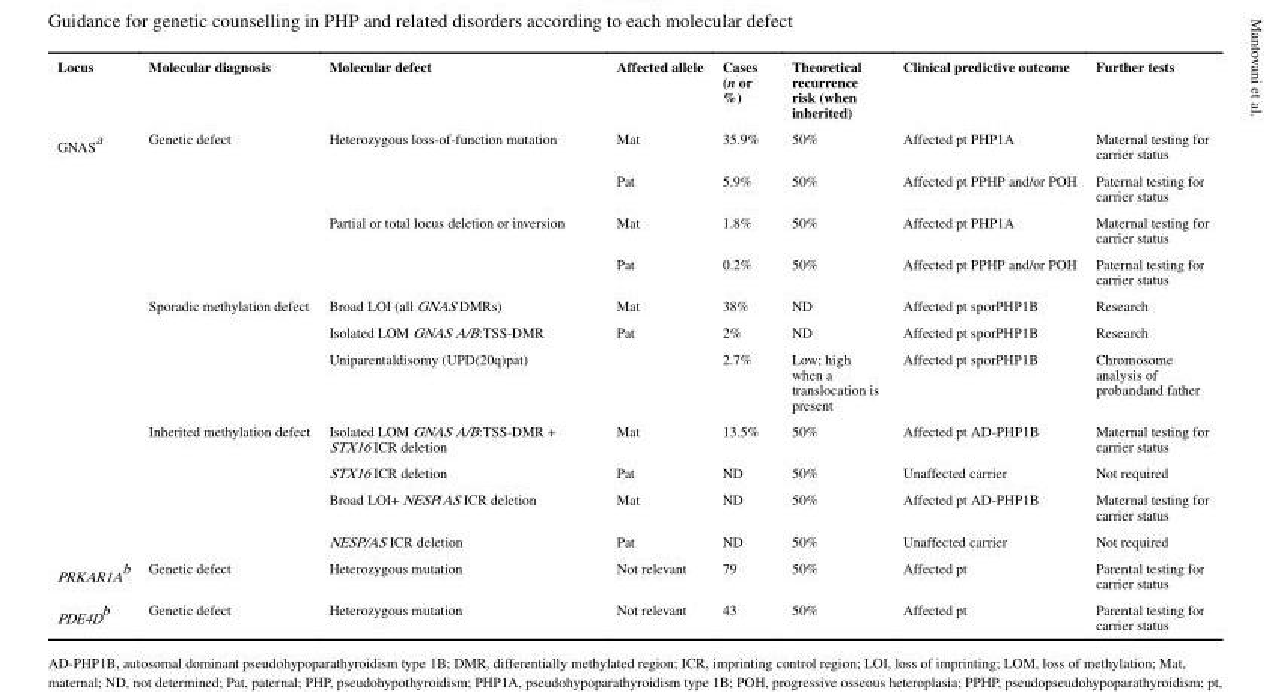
<table><thead><tr><td>Locus</td><td>Molecular diagnosis</td><td>Molecular defect</td><td>Affected allele</td><td>Cases (n or %)</td><td>Theoretical recurrence risk (when inherited)</td><td>Clinical predictive outcome</td><td>Further tests</td></tr></thead><tbody><tr><td rowspan="11">GNAS<sup>a</sup></td><td rowspan="4">Genetic defect</td><td rowspan="2">Heterozygous loss-of-function mutation</td><td>Mat</td><td>35.9%</td><td>50%</td><td>Affected pt PHP1A</td><td>Maternal testing for carrier status</td></tr><tr><td>Pat</td><td>5.9%</td><td>50%</td><td>Affected pt PPHP and/or POH</td><td>Paternal testing for carrier status</td></tr><tr><td rowspan="2">Partial or total locus deletion or inversion</td><td>Mat</td><td>1.8%</td><td>50%</td><td>Affected pt PHP1A</td><td>Maternal testing for carrier status</td></tr><tr><td>Pat</td><td>0.2%</td><td>50%</td><td>Affected pt PPHP and/or POH</td><td>Paternal testing for carrier status</td></tr><tr><td rowspan="3">Sporadic methylation defect</td><td>Broad LOI (all GNAS DMRs)</td><td>Mat</td><td>38%</td><td>ND</td><td>Affected pt sporPHP1B</td><td>Research</td></tr><tr><td>Isolated LOM GNAS A/B:TSS-DMR</td><td>Pat</td><td>2%</td><td>ND</td><td>Affected pt sporPHP1B</td><td>Research</td></tr><tr><td>Uniparentaldisomy (UPD(20q)pat)</td><td></td><td>2.7%</td><td>Low; high when a translocation is present</td><td>Affected pt sporPHP1B</td><td>Chromosome analysis of probandand father</td></tr><tr><td rowspan="4">Inherited methylation defect</td><td>Isolated LOM GNAS A/B:TSS-DMR + STX16 ICR deletion</td><td>Mat</td><td>13.5%</td><td>50%</td><td>Affected pt AD-PHP1B</td><td>Maternal testing for carrier status</td></tr><tr><td>STX16 ICR deletion</td><td>Pat</td><td>ND</td><td>50%</td><td>Unaffected carrier</td><td>Not required</td></tr><tr><td>Broad LOI+ NESP/AS ICR deletion</td><td>Mat</td><td>ND</td><td>50%</td><td>Affected pt AD-PHP1B</td><td>Maternal testing for carrier status</td></tr><tr><td>NESP/AS ICR deletion</td><td>Pat</td><td>ND</td><td>50%</td><td>Unaffected carrier</td><td>Not required</td></tr><tr><td>PRKAR1A<sup>b</sup></td><td>Genetic defect</td><td>Heterozygous mutation</td><td>Not relevant</td><td>79</td><td>50%</td><td>Affected pt</td><td>Parental testing for carrier status</td></tr><tr><td>PDE4D<sup>b</sup></td><td>Genetic defect</td><td>Heterozygous mutation</td><td>Not relevant</td><td>43</td><td>50%</td><td>Affected pt</td><td>Parental testing for carrier status</td></tr></tbody></table>